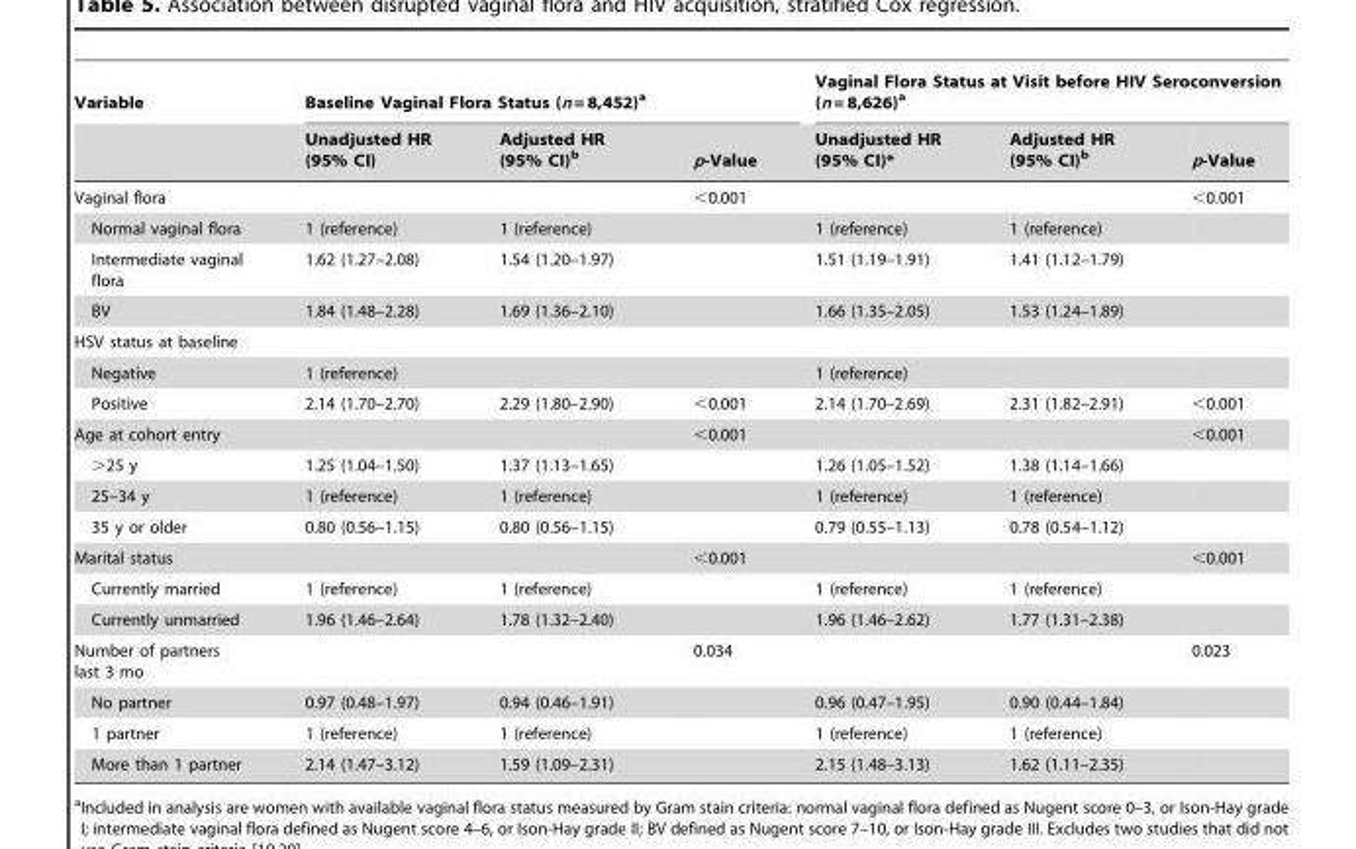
<table><thead><tr><td rowspan="2">Variable</td><td colspan="3">Baseline Vaginal Flora Status (n = 8,452)<sup>a</sup></td><td colspan="3">Vaginal Flora Status at Visit before HIV Seroconversion (n = 8,626)<sup>a</sup></td></tr><tr><td>Unadjusted HR (95% CI)</td><td>Adjusted HR (95% CI)<sup>b</sup></td><td>p-Value</td><td>Unadjusted HR (95% CI)*</td><td>Adjusted HR (95% CI)<sup>b</sup></td><td>p-Value</td></tr></thead><tbody><tr><td>Vaginal flora</td><td></td><td></td><td>&lt;0.001</td><td></td><td></td><td>&lt;0.001</td></tr><tr><td>Normal vaginal flora</td><td>1 (reference)</td><td>1 (reference)</td><td></td><td>1 (reference)</td><td>1 (reference)</td><td></td></tr><tr><td>Intermediate vaginal flora</td><td>1.62 (1.27–2.08)</td><td>1.54 (1.20–1.97)</td><td></td><td>1.51 (1.19–1.91)</td><td>1.41 (1.12–1.79)</td><td></td></tr><tr><td>BV</td><td>1.84 (1.48–2.28)</td><td>1.69 (1.36–2.10)</td><td></td><td>1.66 (1.35–2.05)</td><td>1.53 (1.24–1.89)</td><td></td></tr><tr><td colspan="7">HSV status at baseline</td></tr><tr><td>Negative</td><td>1 (reference)</td><td></td><td></td><td>1 (reference)</td><td></td><td></td></tr><tr><td>Positive</td><td>2.14 (1.70–2.70)</td><td>2.29 (1.80–2.90)</td><td>&lt;0.001</td><td>2.14 (1.70–2.69)</td><td>2.31 (1.82–2.91)</td><td>&lt;0.001</td></tr><tr><td>Age at cohort entry</td><td></td><td></td><td>&lt;0.001</td><td></td><td></td><td>&lt;0.001</td></tr><tr><td>&gt;25 y</td><td>1.25 (1.04–1.50)</td><td>1.37 (1.13–1.65)</td><td></td><td>1.26 (1.05–1.52)</td><td>1.38 (1.14–1.66)</td><td></td></tr><tr><td>25–34 y</td><td>1 (reference)</td><td>1 (reference)</td><td></td><td>1 (reference)</td><td>1 (reference)</td><td></td></tr><tr><td>35 y or older</td><td>0.80 (0.56–1.15)</td><td>0.80 (0.56–1.15)</td><td></td><td>0.79 (0.55–1.13)</td><td>0.78 (0.54–1.12)</td><td></td></tr><tr><td>Marital status</td><td></td><td></td><td>&lt;0.001</td><td></td><td></td><td>&lt;0.001</td></tr><tr><td>Currently married</td><td>1 (reference)</td><td>1 (reference)</td><td></td><td>1 (reference)</td><td>1 (reference)</td><td></td></tr><tr><td>Currently unmarried</td><td>1.96 (1.46–2.64)</td><td>1.78 (1.32–2.40)</td><td></td><td>1.96 (1.46–2.62)</td><td>1.77 (1.31–2.38)</td><td></td></tr><tr><td>Number of partners last 3 mo</td><td></td><td></td><td>0.034</td><td></td><td></td><td>0.023</td></tr><tr><td>No partner</td><td>0.97 (0.48–1.97)</td><td>0.94 (0.46–1.91)</td><td></td><td>0.96 (0.47–1.95)</td><td>0.90 (0.44–1.84)</td><td></td></tr><tr><td>1 partner</td><td>1 (reference)</td><td>1 (reference)</td><td></td><td>1 (reference)</td><td>1 (reference)</td><td></td></tr><tr><td>More than 1 partner</td><td>2.14 (1.47–3.12)</td><td>1.59 (1.09–2.31)</td><td></td><td>2.15 (1.48–3.13)</td><td>1.62 (1.11–2.35)</td><td></td></tr></tbody></table>